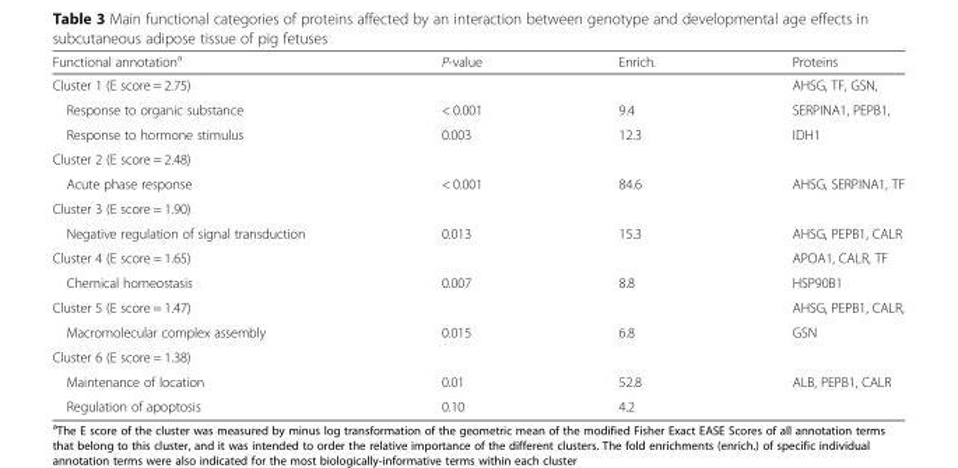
<table><thead><tr><td>Functional annotation<sup>a</sup></td><td>P-value</td><td>Enrich.</td><td>Proteins</td></tr></thead><tbody><tr><td>Cluster 1 (E score = 2.75)</td><td></td><td></td><td>AHSG, TF, GSN,</td></tr><tr><td>Response to organic substance</td><td>&lt; 0.001</td><td>9.4</td><td>SERPINA1, PEPB1,</td></tr><tr><td>Response to hormone stimulus</td><td>0.003</td><td>12.3</td><td>IDH1</td></tr><tr><td colspan="4">Cluster 2 (E score = 2.48)</td></tr><tr><td>Acute phase response</td><td>&lt; 0.001</td><td>84.6</td><td>AHSG, SERPINA1, TF</td></tr><tr><td colspan="4">Cluster 3 (E score = 1.90)</td></tr><tr><td>Negative regulation of signal transduction</td><td>0.013</td><td>15.3</td><td>AHSG, PEPB1, CALR</td></tr><tr><td>Cluster 4 (E score = 1.65)</td><td></td><td></td><td>APOA1, CALR, TF</td></tr><tr><td>Chemical homeostasis</td><td>0.007</td><td>8.8</td><td>HSP90B1</td></tr><tr><td>Cluster 5 (E score = 1.47)</td><td></td><td></td><td>AHSG, PEPB1, CALR,</td></tr><tr><td>Macromolecular complex assembly</td><td>0.015</td><td>6.8</td><td>GSN</td></tr><tr><td colspan="4">Cluster 6 (E score = 1.38)</td></tr><tr><td>Maintenance of location</td><td>0.01</td><td>52.8</td><td>ALB, PEPB1, CALR</td></tr><tr><td>Regulation of apoptosis</td><td>0.10</td><td>4.2</td><td></td></tr></tbody></table>